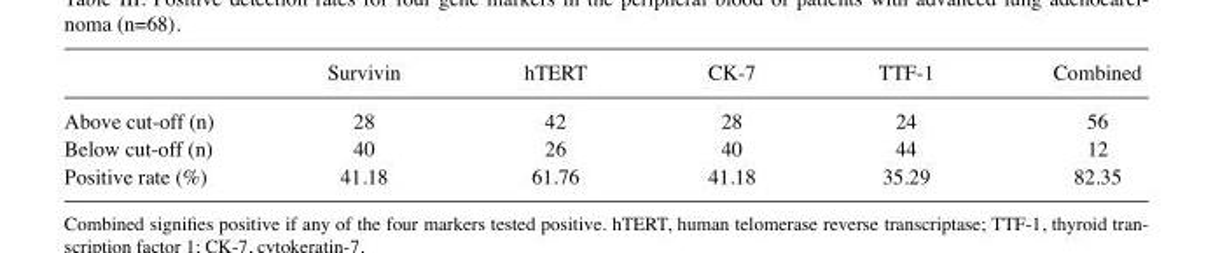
<table><thead><tr><td></td><td>Survivin</td><td>hTERT</td><td>CK-7</td><td>TTF-1</td><td>Combined</td></tr></thead><tbody><tr><td>Above cut-off (n)</td><td>28</td><td>42</td><td>28</td><td>24</td><td>56</td></tr><tr><td>Below cut-off (n)</td><td>40</td><td>26</td><td>40</td><td>44</td><td>12</td></tr><tr><td>Positive rate (%)</td><td>41.18</td><td>61.76</td><td>41.18</td><td>35.29</td><td>82.35</td></tr></tbody></table>